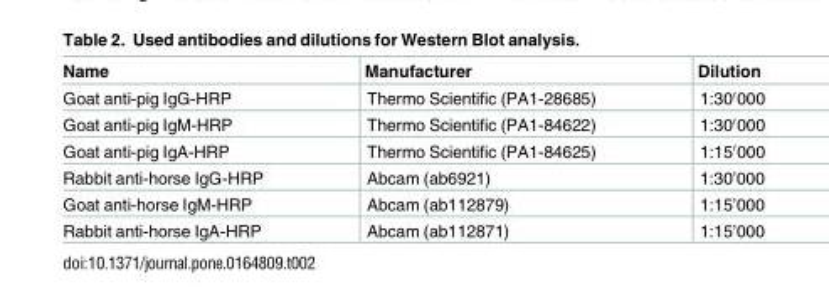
<table><thead><tr><td>Name</td><td>Manufacturer</td><td>Dilution</td></tr></thead><tbody><tr><td>Goat anti-pig IgG-HRP</td><td>Thermo Scientific (PA1-28685)</td><td>1:30′000</td></tr><tr><td>Goat anti-pig IgM-HRP</td><td>Thermo Scientific (PA1-84622)</td><td>1:30′000</td></tr><tr><td>Goat anti-pig IgA-HRP</td><td>Thermo Scientific (PA1-84625)</td><td>1:15′000</td></tr><tr><td>Rabbit anti-horse IgG-HRP</td><td>Abcam (ab6921)</td><td>1:30’000</td></tr><tr><td>Goat anti-horse IgM-HRP</td><td>Abcam (ab112879)</td><td>1:15’000</td></tr><tr><td>Rabbit anti-horse IgA-HRP</td><td>Abcam (ab112871)</td><td>1:15’000</td></tr></tbody></table>